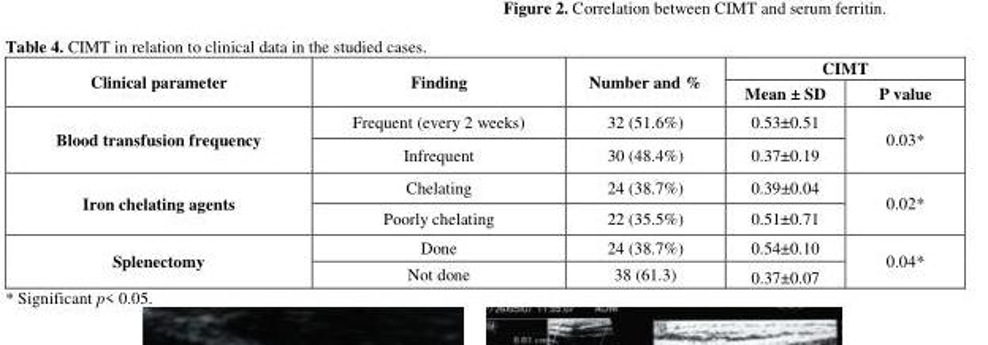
<table><thead><tr><td rowspan="2">Clinical parameter</td><td rowspan="2">Finding</td><td rowspan="2">Number and %</td><td colspan="2">CIMT</td></tr><tr><td>Mean ± SD</td><td>P value</td></tr></thead><tbody><tr><td rowspan="2">Blood transfusion frequency</td><td>Frequent (every 2 weeks)</td><td>32 (51.6%)</td><td>0.53±0.51</td><td rowspan="2">0.03*</td></tr><tr><td>Infrequent</td><td>30 (48.4%)</td><td>0.37±0.19</td></tr><tr><td rowspan="2">Iron chelating agents</td><td>Chelating</td><td>24 (38.7%)</td><td>0.39±0.04</td><td rowspan="2">0.02*</td></tr><tr><td>Poorly chelating</td><td>22 (35.5%)</td><td>0.51±0.71</td></tr><tr><td rowspan="2">Splenectomy</td><td>Done</td><td>24 (38.7%)</td><td>0.54±0.10</td><td rowspan="2">0.04*</td></tr><tr><td>Not done</td><td>38 (61.3)</td><td>0.37±0.07</td></tr></tbody></table>